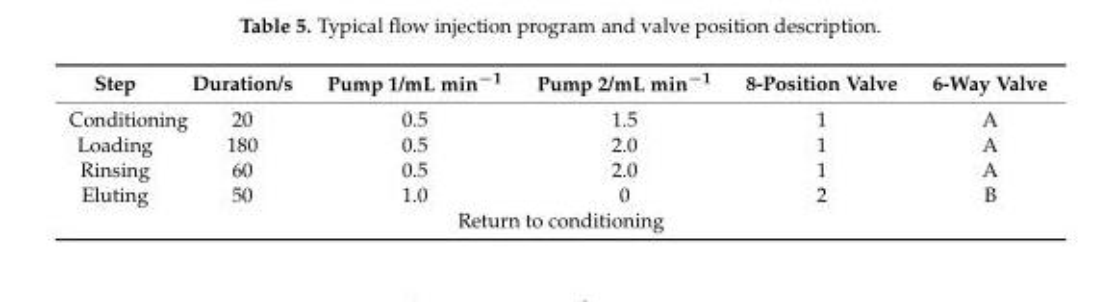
<table><thead><tr><td>Step</td><td>Duration/s</td><td>Pump 1/mL min<sup>−1</sup></td><td>Pump 2/mL min<sup>−1</sup></td><td>8-Position Valve</td><td>6-Way Valve</td></tr></thead><tbody><tr><td>Conditioning</td><td>20</td><td>0.5</td><td>1.5</td><td>1</td><td>A</td></tr><tr><td>Loading</td><td>180</td><td>0.5</td><td>2.0</td><td>1</td><td>A</td></tr><tr><td>Rinsing</td><td>60</td><td>0.5</td><td>2.0</td><td>1</td><td>A</td></tr><tr><td>Eluting</td><td>50</td><td>1.0</td><td>0</td><td>2</td><td>B</td></tr><tr><td colspan="6">Return to conditioning</td></tr></tbody></table>